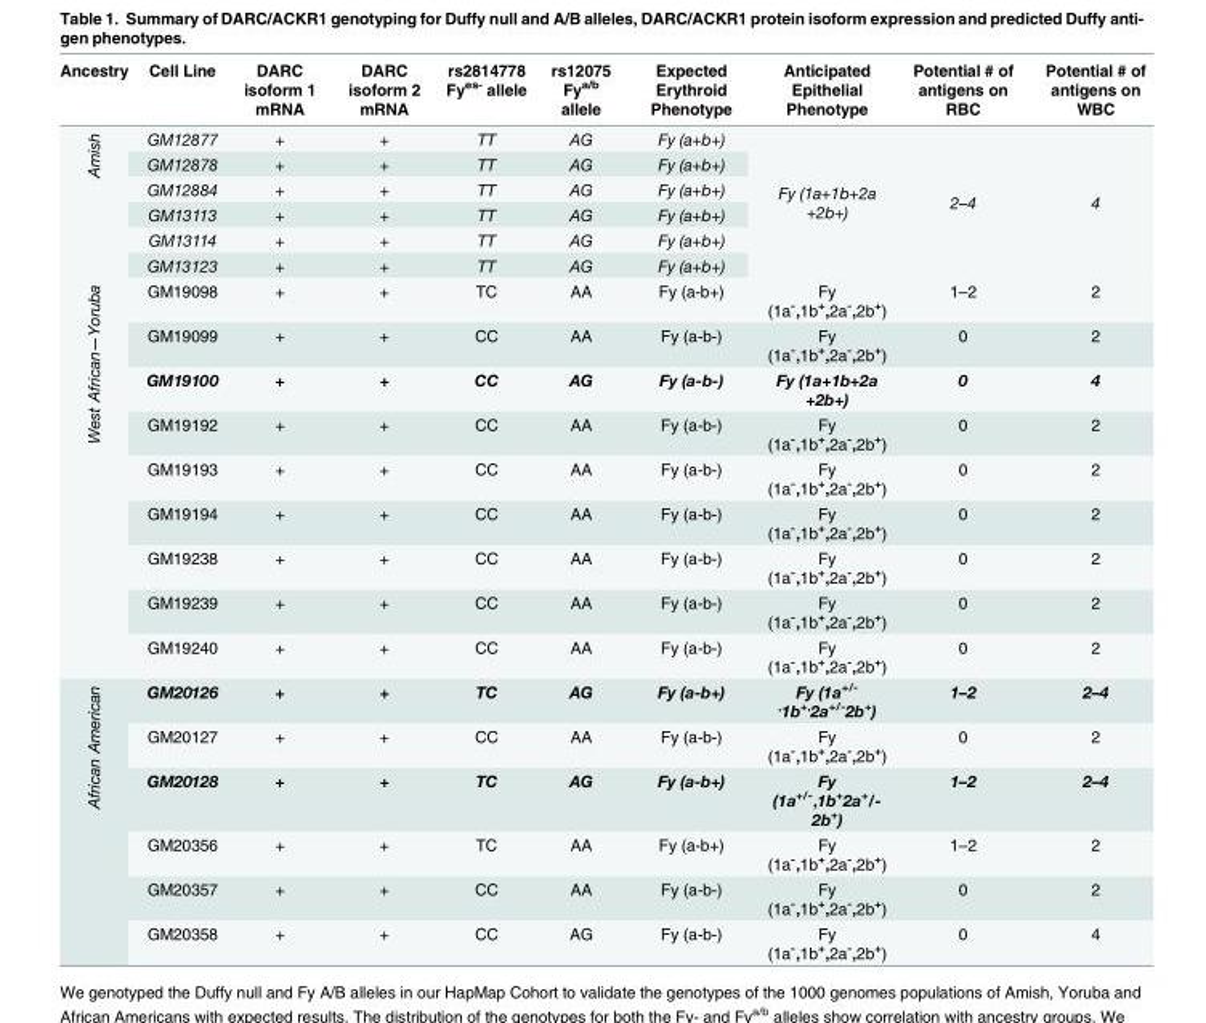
<table><thead><tr><td>Ancestry</td><td>Cell Line</td><td>DARC isoform 1 mRNA</td><td>DARC isoform 2 mRNA</td><td>rs2814778 Fy<sup>es-</sup> allele</td><td>rs12075 Fy<sup>a/b</sup> allele</td><td>Expected Erythroid Phenotype</td><td>Anticipated Epithelial Phenotype</td><td>Potential # of antigens on RBC</td><td>Potential # of antigens on WBC</td></tr></thead><tbody><tr><td rowspan="6">Amish</td><td>GM12877</td><td>+</td><td>+</td><td>TT</td><td>AG</td><td>Fy (a+b+)</td><td rowspan="6">Fy (1a+1b+2a +2b+)</td><td rowspan="6">2–4</td><td rowspan="6">4</td></tr><tr><td>GM12878</td><td>+</td><td>+</td><td>TT</td><td>AG</td><td>Fy (a+b+)</td></tr><tr><td>GM12884</td><td>+</td><td>+</td><td>TT</td><td>AG</td><td>Fy (a+b+)</td></tr><tr><td>GM13113</td><td>+</td><td>+</td><td>TT</td><td>AG</td><td>Fy (a+b+)</td></tr><tr><td>GM13114</td><td>+</td><td>+</td><td>TT</td><td>AG</td><td>Fy (a+b+)</td></tr><tr><td>GM13123</td><td>+</td><td>+</td><td>TT</td><td>AG</td><td>Fy (a+b+)</td></tr><tr><td rowspan="9">West African—Yoruba</td><td>GM19098</td><td>+</td><td>+</td><td>TC</td><td>AA</td><td>Fy (a-b+)</td><td>Fy (1a<sup>-</sup>,1b<sup>+</sup>,2a<sup>-</sup>,2b<sup>+</sup>)</td><td>1–2</td><td>2</td></tr><tr><td>GM19099</td><td>+</td><td>+</td><td>CC</td><td>AA</td><td>Fy (a-b-)</td><td>Fy (1a<sup>-</sup>,1b<sup>+</sup>,2a<sup>-</sup>,2b<sup>+</sup>)</td><td>0</td><td>2</td></tr><tr><td>GM19100</td><td>+</td><td>+</td><td>CC</td><td>AG</td><td>Fy (a-b-)</td><td>Fy (1a+1b+2a +2b+)</td><td>0</td><td>4</td></tr><tr><td>GM19192</td><td>+</td><td>+</td><td>CC</td><td>AA</td><td>Fy (a-b-)</td><td>Fy (1a<sup>-</sup>,1b<sup>+</sup>,2a<sup>-</sup>,2b<sup>+</sup>)</td><td>0</td><td>2</td></tr><tr><td>GM19193</td><td>+</td><td>+</td><td>CC</td><td>AA</td><td>Fy (a-b-)</td><td>Fy (1a<sup>-</sup>,1b<sup>+</sup>,2a<sup>-</sup>,2b<sup>+</sup>)</td><td>0</td><td>2</td></tr><tr><td>GM19194</td><td>+</td><td>+</td><td>CC</td><td>AA</td><td>Fy (a-b-)</td><td>Fy (1a<sup>-</sup>,1b<sup>+</sup>,2a<sup>-</sup>,2b<sup>+</sup>)</td><td>0</td><td>2</td></tr><tr><td>GM19238</td><td>+</td><td>+</td><td>CC</td><td>AA</td><td>Fy (a-b-)</td><td>Fy (1a<sup>-</sup>,1b<sup>+</sup>,2a<sup>-</sup>,2b<sup>+</sup>)</td><td>0</td><td>2</td></tr><tr><td>GM19239</td><td>+</td><td>+</td><td>CC</td><td>AA</td><td>Fy (a-b-)</td><td>Fy (1a<sup>-</sup>,1b<sup>+</sup>,2a<sup>-</sup>,2b<sup>+</sup>)</td><td>0</td><td>2</td></tr><tr><td>GM19240</td><td>+</td><td>+</td><td>CC</td><td>AA</td><td>Fy (a-b-)</td><td>Fy (1a<sup>-</sup>,1b<sup>+</sup>,2a<sup>-</sup>,2b<sup>+</sup>)</td><td>0</td><td>2</td></tr><tr><td rowspan="6">African American</td><td>GM20126</td><td>+</td><td>+</td><td>TC</td><td>AG</td><td>Fy (a-b+)</td><td>Fy (1a+/- ,1b+,2a+/-2b+)</td><td>1–2</td><td>2–4</td></tr><tr><td>GM20127</td><td>+</td><td>+</td><td>CC</td><td>AA</td><td>Fy (a-b-)</td><td>Fy (1a<sup>-</sup>,1b<sup>+</sup>,2a<sup>-</sup>,2b<sup>+</sup>)</td><td>0</td><td>2</td></tr><tr><td>GM20128</td><td>+</td><td>+</td><td>TC</td><td>AG</td><td>Fy (a-b+)</td><td>Fy (1a+/-,1b+2a+/- 2b+)</td><td>1–2</td><td>2–4</td></tr><tr><td>GM20356</td><td>+</td><td>+</td><td>TC</td><td>AA</td><td>Fy (a-b+)</td><td>Fy (1a<sup>-</sup>,1b<sup>+</sup>,2a<sup>-</sup>,2b<sup>+</sup>)</td><td>1–2</td><td>2</td></tr><tr><td>GM20357</td><td>+</td><td>+</td><td>CC</td><td>AA</td><td>Fy (a-b-)</td><td>Fy (1a<sup>-</sup>,1b<sup>+</sup>,2a<sup>-</sup>,2b<sup>+</sup>)</td><td>0</td><td>2</td></tr><tr><td>GM20358</td><td>+</td><td>+</td><td>CC</td><td>AG</td><td>Fy (a-b-)</td><td>Fy (1a<sup>-</sup>,1b<sup>+</sup>,2a<sup>-</sup>,2b<sup>+</sup>)</td><td>0</td><td>4</td></tr></tbody></table>